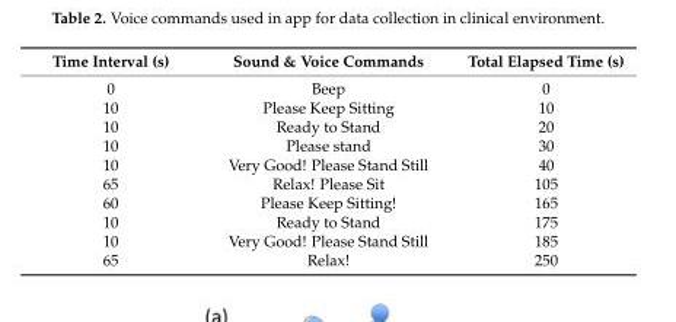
<table><thead><tr><td>Time Interval (s)</td><td>Sound &amp; Voice Commands</td><td>Total Elapsed Time (s)</td></tr></thead><tbody><tr><td>0</td><td>Beep</td><td>0</td></tr><tr><td>10</td><td>Please Keep Sitting</td><td>10</td></tr><tr><td>10</td><td>Ready to Stand</td><td>20</td></tr><tr><td>10</td><td>Please stand</td><td>30</td></tr><tr><td>10</td><td>Very Good! Please Stand Still</td><td>40</td></tr><tr><td>65</td><td>Relax! Please Sit</td><td>105</td></tr><tr><td>60</td><td>Please Keep Sitting!</td><td>165</td></tr><tr><td>10</td><td>Ready to Stand</td><td>175</td></tr><tr><td>10</td><td>Very Good! Please Stand Still</td><td>185</td></tr><tr><td>65</td><td>Relax!</td><td>250</td></tr></tbody></table>